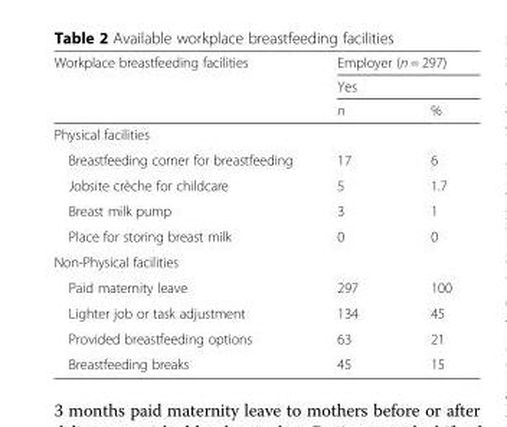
<table><thead><tr><td rowspan="3">Workplace breastfeeding facilities</td><td rowspan="2" colspan="2">Employer (n = 297) Yes</td></tr><tr></tr><tr><td>n</td><td>%</td></tr></thead><tbody><tr><td colspan="3">Physical facilities</td></tr><tr><td>Breastfeeding corner for breastfeeding</td><td>17</td><td>6</td></tr><tr><td>Jobsite crèche for childcare</td><td>5</td><td>1.7</td></tr><tr><td>Breast milk pump</td><td>3</td><td>1</td></tr><tr><td>Place for storing breast milk</td><td>0</td><td>0</td></tr><tr><td colspan="3">Non-Physical facilities</td></tr><tr><td>Paid maternity leave</td><td>297</td><td>100</td></tr><tr><td>Lighter job or task adjustment</td><td>134</td><td>45</td></tr><tr><td>Provided breastfeeding options</td><td>63</td><td>21</td></tr><tr><td>Breastfeeding breaks</td><td>45</td><td>15</td></tr></tbody></table>